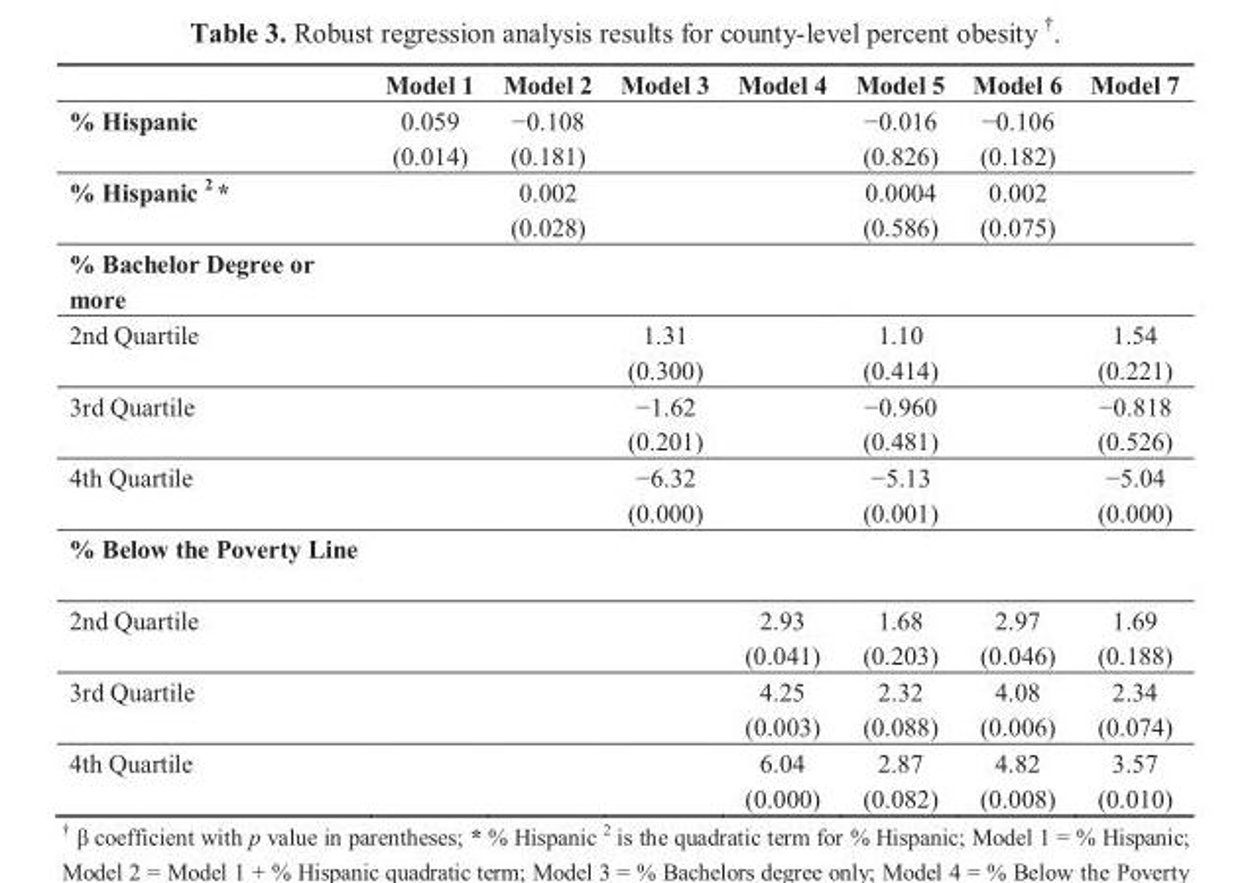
<table><thead><tr><td></td><td>Model 1</td><td>Model 2</td><td>Model 3</td><td>Model 4</td><td>Model 5</td><td>Model 6</td><td>Model 7</td></tr></thead><tbody><tr><td>% Hispanic</td><td>0.059 (0.014)</td><td>−0.108 (0.181)</td><td></td><td></td><td>−0.016 (0.826)</td><td>−0.106 (0.182)</td><td></td></tr><tr><td>% Hispanic <sup>2</sup> *</td><td></td><td>0.002 (0.028)</td><td></td><td></td><td>0.0004 (0.586)</td><td>0.002 (0.075)</td><td></td></tr><tr><td colspan="8">% Bachelor Degree or more</td></tr><tr><td>2nd Quartile</td><td></td><td></td><td>1.31 (0.300)</td><td></td><td>1.10 (0.414)</td><td></td><td>1.54 (0.221)</td></tr><tr><td>3rd Quartile</td><td></td><td></td><td>−1.62 (0.201)</td><td></td><td>−0.960 (0.481)</td><td></td><td>−0.818 (0.526)</td></tr><tr><td>4th Quartile</td><td></td><td></td><td>−6.32 (0.000)</td><td></td><td>−5.13 (0.001)</td><td></td><td>−5.04 (0.000)</td></tr><tr><td colspan="8">% Below the Poverty Line</td></tr><tr><td>2nd Quartile</td><td></td><td></td><td></td><td>2.93 (0.041)</td><td>1.68 (0.203)</td><td>2.97 (0.046)</td><td>1.69 (0.188)</td></tr><tr><td>3rd Quartile</td><td></td><td></td><td></td><td>4.25 (0.003)</td><td>2.32 (0.088)</td><td>4.08 (0.006)</td><td>2.34 (0.074)</td></tr><tr><td>4th Quartile</td><td></td><td></td><td></td><td>6.04 (0.000)</td><td>2.87 (0.082)</td><td>4.82 (0.008)</td><td>3.57 (0.010)</td></tr></tbody></table>